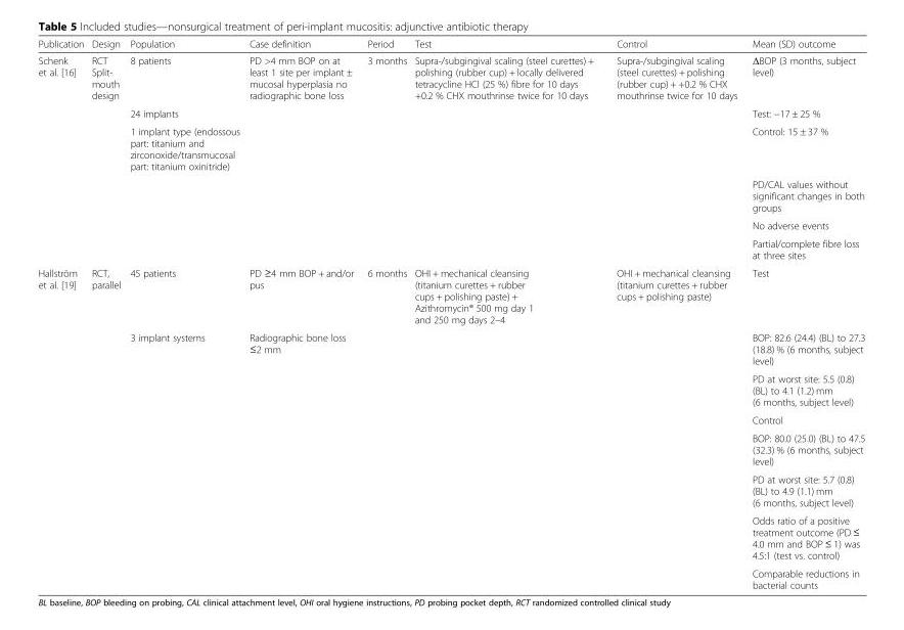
<table><thead><tr><td>Publication</td><td>Design</td><td>Population</td><td>Case definition</td><td>Period</td><td>Test</td><td>Control</td><td>Mean (SD) outcome</td></tr></thead><tbody><tr><td rowspan="6">Schenk et al. [16]</td><td>RCT Split- mouth design</td><td>8 patients</td><td>PD &gt;4 mm BOP on at least 1 site per implant ± mucosal hyperplasia no radiographic bone loss</td><td>3 months</td><td>Supra-/subgingival scaling (steel curettes) + polishing (rubber cup) + locally delivered tetracycline HCl (25 %) fibre for 10 days +0.2 % CHX mouthrinse twice for 10 days</td><td>Supra-/subgingival scaling (steel curettes) + polishing (rubber cup) + +0.2 % CHX mouthrinse twice for 10 days</td><td>ΔBOP (3 months, subject level)</td></tr><tr><td></td><td>24 implants</td><td></td><td></td><td></td><td></td><td>Test: −17 ± 25 %</td></tr><tr><td></td><td>1 implant type (endossous part: titanium and zirconoxide/transmucosal part: titanium oxinitride)</td><td></td><td></td><td></td><td></td><td>Control: 15 ± 37 %</td></tr><tr><td></td><td></td><td></td><td></td><td></td><td></td><td>PD/CAL values without significant changes in both groups</td></tr><tr><td></td><td></td><td></td><td></td><td></td><td></td><td>No adverse events</td></tr><tr><td></td><td></td><td></td><td></td><td></td><td></td><td>Partial/complete fibre loss at three sites</td></tr><tr><td rowspan="8">Hallström et al. [19]</td><td>RCT, parallel</td><td>45 patients</td><td>PD ≥4 mm BOP + and/or pus</td><td>6 months</td><td>OHI + mechanical cleansing (titanium curettes + rubber cups + polishing paste) + Azithromycin® 500 mg day 1 and 250 mg days 2–4</td><td>OHI + mechanical cleansing (titanium curettes + rubber cups + polishing paste)</td><td>Test</td></tr><tr><td></td><td>3 implant systems</td><td>Radiographic bone loss ≤2 mm</td><td></td><td></td><td></td><td>BOP: 82.6 (24.4) (BL) to 27.3 (18.8) % (6 months, subject level)</td></tr><tr><td></td><td></td><td></td><td></td><td></td><td></td><td>PD at worst site: 5.5 (0.8) (BL) to 4.1 (1.2) mm (6 months, subject level)</td></tr><tr><td></td><td></td><td></td><td></td><td></td><td></td><td>Control</td></tr><tr><td></td><td></td><td></td><td></td><td></td><td></td><td>BOP: 80.0 (25.0) (BL) to 47.5 (32.3) % (6 months, subject level)</td></tr><tr><td></td><td></td><td></td><td></td><td></td><td></td><td>PD at worst site: 5.7 (0.8) (BL) to 4.9 (1.1) mm (6 months, subject level)</td></tr><tr><td></td><td></td><td></td><td></td><td></td><td></td><td>Odds ratio of a positive treatment outcome (PD ≤ 4.0 mm and BOP ≤ 1) was 4.5:1 (test vs. control)</td></tr><tr><td></td><td></td><td></td><td></td><td></td><td></td><td>Comparable reductions in bacterial counts</td></tr></tbody></table>